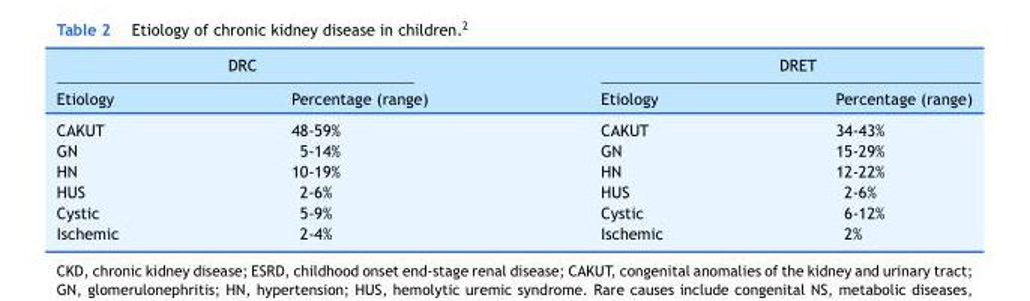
<table><thead><tr><td colspan="2">DRC</td><td colspan="2">DRET</td></tr><tr><td>Etiology</td><td>Percentage (range)</td><td>Etiology</td><td>Percentage (range)</td></tr></thead><tbody><tr><td>CAKUT</td><td>48-59%</td><td>CAKUT</td><td>34-43%</td></tr><tr><td>GN</td><td>5-14%</td><td>GN</td><td>15-29%</td></tr><tr><td>HN</td><td>10-19%</td><td>HN</td><td>12-22%</td></tr><tr><td>HUS</td><td>2-6%</td><td>HUS</td><td>2-6%</td></tr><tr><td>Cystic</td><td>5-9%</td><td>Cystic</td><td>6-12%</td></tr><tr><td>Ischemic</td><td>2-4%</td><td>Ischemic</td><td>2%</td></tr></tbody></table>